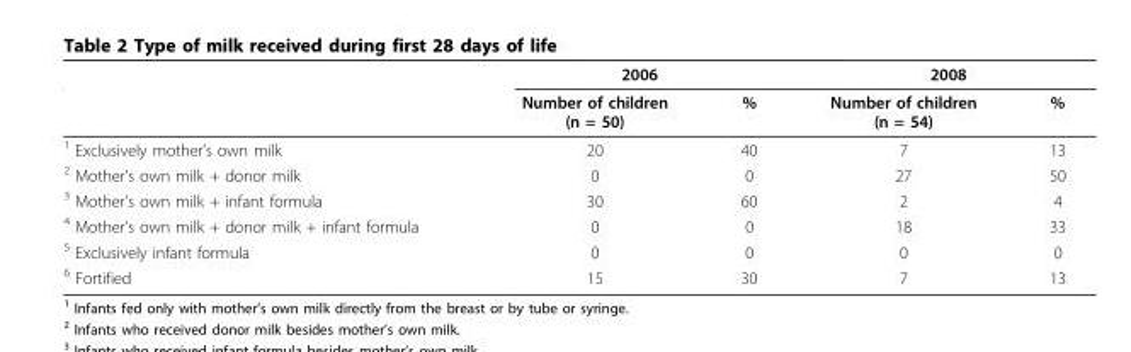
<table><thead><tr><td rowspan="2"></td><td colspan="2">2006</td><td colspan="2">2008</td></tr><tr><td>Number of children (n = 50)</td><td>%</td><td>Number of children (n = 54)</td><td>%</td></tr></thead><tbody><tr><td><sup>1</sup> Exclusively mother’s own milk</td><td>20</td><td>40</td><td>7</td><td>13</td></tr><tr><td><sup>2</sup> Mother’s own milk + donor milk</td><td>0</td><td>0</td><td>27</td><td>50</td></tr><tr><td><sup>3</sup> Mother’s own milk + infant formula</td><td>30</td><td>60</td><td>2</td><td>4</td></tr><tr><td><sup>4</sup> Mother’s own milk + donor milk + infant formula</td><td>0</td><td>0</td><td>18</td><td>33</td></tr><tr><td><sup>5</sup> Exclusively infant formula</td><td>0</td><td>0</td><td>0</td><td>0</td></tr><tr><td><sup>6</sup> Fortified</td><td>15</td><td>30</td><td>7</td><td>13</td></tr></tbody></table>